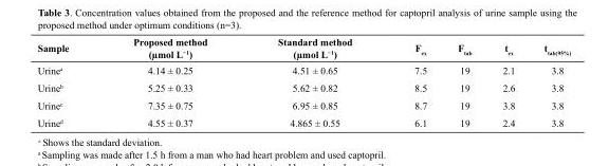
<table><thead><tr><td>Sample</td><td>Proposed method (µmol L<sup>−1</sup>)</td><td>Standard method (µmol L<sup>−1</sup>)</td><td>F<sub>ex</sub></td><td>F<sub>tab</sub></td><td>t<sub>ex</sub></td><td>t<sub>tab(95%)</sub></td></tr></thead><tbody><tr><td>Urine<sup>a</sup></td><td>4.14 ± 0.25</td><td>4.51 ± 0.65</td><td>7.5</td><td>19</td><td>2.1</td><td>3.8</td></tr><tr><td>Urine<sup>b</sup></td><td>5.25 ± 0.33</td><td>5.62 ± 0.82</td><td>8.5</td><td>19</td><td>2.6</td><td>3.8</td></tr><tr><td>Urine<sup>c</sup></td><td>7.35 ± 0.75</td><td>6.95 ± 0.85</td><td>8.7</td><td>19</td><td>3.8</td><td>3.8</td></tr><tr><td>Urine<sup>d</sup></td><td>4.55 ± 0.37</td><td>4.865 ± 0.55</td><td>6.1</td><td>19</td><td>2.4</td><td>3.8</td></tr></tbody></table>